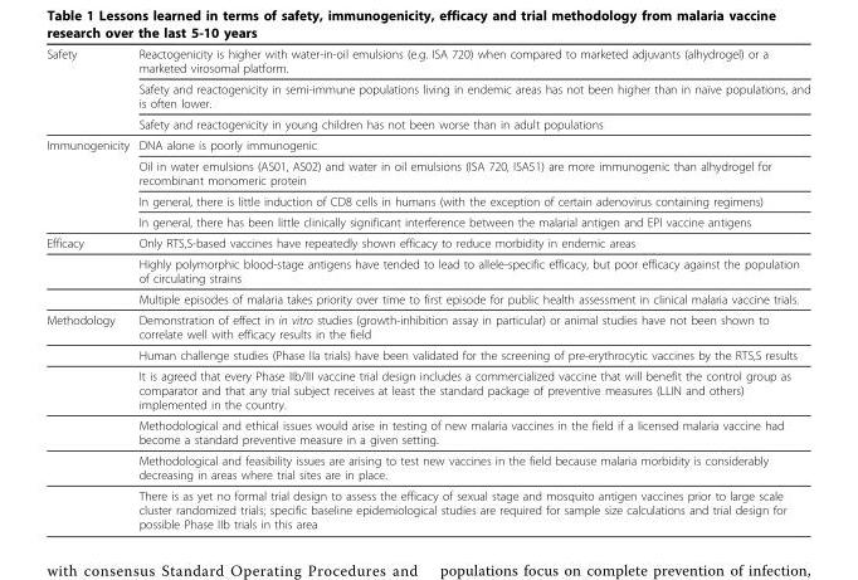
<table><thead><tr><td rowspan="3">Safety</td><td rowspan="3">Reactogenicity is higher with water-in-oil emulsions (e.g. ISA 720) when compared to marketed adjuvants (alhydrogel) or a marketed virosomal platform. Safety and reactogenicity in semi-immune populations living in endemic areas has not been higher than in naïve populations, and is often lower. Safety and reactogenicity in young children has not been worse than in adult populations</td></tr><tr></tr><tr></tr></thead><tbody><tr><td rowspan="4">Immunogenicity</td><td>DNA alone is poorly immunogenic</td></tr><tr><td>Oil in water emulsions (AS01, AS02) and water in oil emulsions (ISA 720, ISA51) are more immunogenic than alhydrogel for recombinant monomeric protein</td></tr><tr><td>In general, there is little induction of CD8 cells in humans (with the exception of certain adenovirus containing regimens)</td></tr><tr><td>In general, there has been little clinically significant interference between the malarial antigen and EPI vaccine antigens</td></tr><tr><td rowspan="3">Efficacy</td><td>Only RTS,S-based vaccines have repeatedly shown efficacy to reduce morbidity in endemic areas</td></tr><tr><td>Highly polymorphic blood-stage antigens have tended to lead to allele-specific efficacy, but poor efficacy against the population of circulating strains</td></tr><tr><td>Multiple episodes of malaria takes priority over time to first episode for public health assessment in clinical malaria vaccine trials.</td></tr><tr><td rowspan="6">Methodology</td><td>Demonstration of effect in in vitro studies (growth-inhibition assay in particular) or animal studies have not been shown to correlate well with efficacy results in the field</td></tr><tr><td>Human challenge studies (Phase IIa trials) have been validated for the screening of pre-erythrocytic vaccines by the RTS,S results</td></tr><tr><td>It is agreed that every Phase IIb/III vaccine trial design includes a commercialized vaccine that will benefit the control group as comparator and that any trial subject receives at least the standard package of preventive measures (LLIN and others) implemented in the country.</td></tr><tr><td>Methodological and ethical issues would arise in testing of new malaria vaccines in the field if a licensed malaria vaccine had become a standard preventive measure in a given setting.</td></tr><tr><td>Methodological and feasibility issues are arising to test new vaccines in the field because malaria morbidity is considerably decreasing in areas where trial sites are in place.</td></tr><tr><td>There is as yet no formal trial design to assess the efficacy of sexual stage and mosquito antigen vaccines prior to large scale cluster randomized trials; specific baseline epidemiological studies are required for sample size calculations and trial design for possible Phase IIb trials in this area</td></tr></tbody></table>